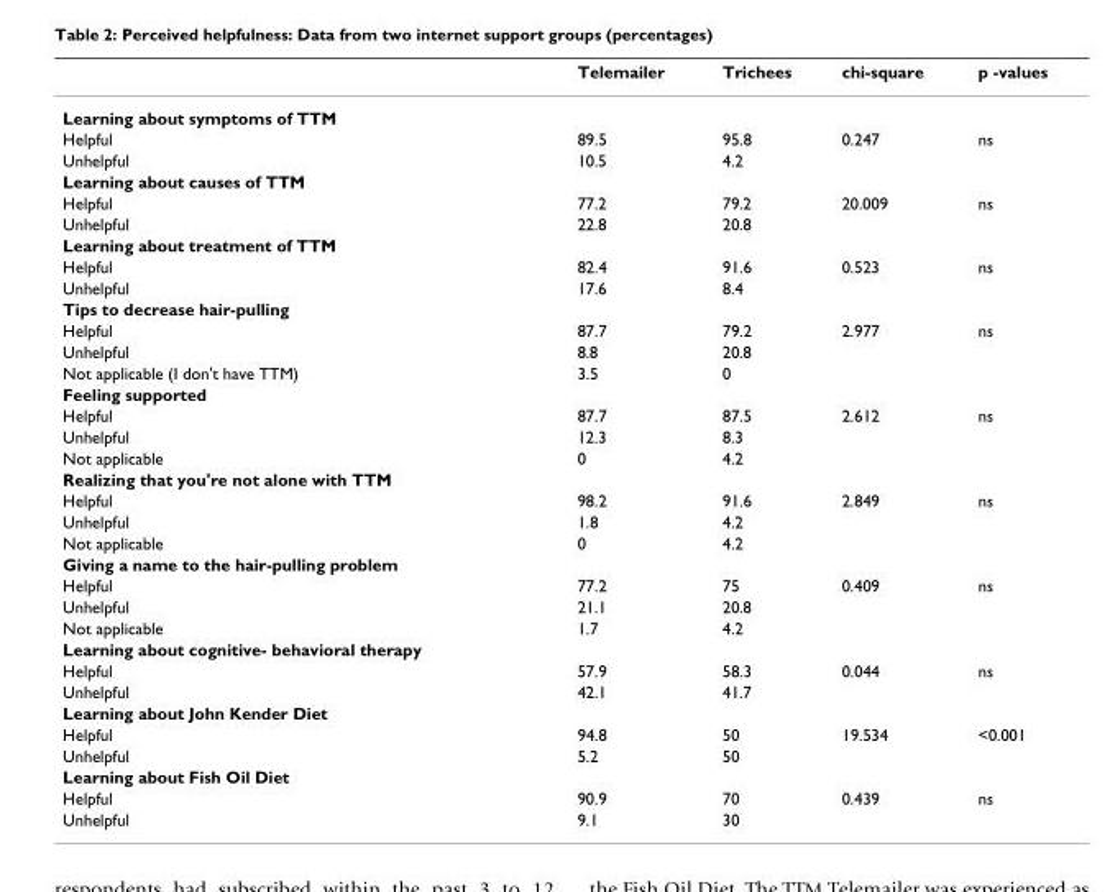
<table><thead><tr><td></td><td>Telemailer</td><td>Trichees</td><td>chi-square</td><td>p -values</td></tr></thead><tbody><tr><td colspan="5">Learning about symptoms of TTM</td></tr><tr><td>Helpful</td><td>89.5</td><td>95.8</td><td>0.247</td><td>ns</td></tr><tr><td>Unhelpful</td><td>10.5</td><td>4.2</td><td></td><td></td></tr><tr><td colspan="5">Learning about causes of TTM</td></tr><tr><td>Helpful</td><td>77.2</td><td>79.2</td><td>20.009</td><td>ns</td></tr><tr><td>Unhelpful</td><td>22.8</td><td>20.8</td><td></td><td></td></tr><tr><td colspan="5">Learning about treatment of TTM</td></tr><tr><td>Helpful</td><td>82.4</td><td>91.6</td><td>0.523</td><td>ns</td></tr><tr><td>Unhelpful</td><td>17.6</td><td>8.4</td><td></td><td></td></tr><tr><td colspan="5">Tips to decrease hair-pulling</td></tr><tr><td>Helpful</td><td>87.7</td><td>79.2</td><td>2.977</td><td>ns</td></tr><tr><td>Unhelpful</td><td>8.8</td><td>20.8</td><td></td><td></td></tr><tr><td>Not applicable (I don&#x27;t have TTM)</td><td>3.5</td><td>0</td><td></td><td></td></tr><tr><td colspan="5">Feeling supported</td></tr><tr><td>Helpful</td><td>87.7</td><td>87.5</td><td>2.612</td><td>ns</td></tr><tr><td>Unhelpful</td><td>12.3</td><td>8.3</td><td></td><td></td></tr><tr><td>Not applicable</td><td>0</td><td>4.2</td><td></td><td></td></tr><tr><td colspan="5">Realizing that you&#x27;re not alone with TTM</td></tr><tr><td>Helpful</td><td>98.2</td><td>91.6</td><td>2.849</td><td>ns</td></tr><tr><td>Unhelpful</td><td>1.8</td><td>4.2</td><td></td><td></td></tr><tr><td>Not applicable</td><td>0</td><td>4.2</td><td></td><td></td></tr><tr><td colspan="5">Giving a name to the hair-pulling problem</td></tr><tr><td>Helpful</td><td>77.2</td><td>75</td><td>0.409</td><td>ns</td></tr><tr><td>Unhelpful</td><td>21.1</td><td>20.8</td><td></td><td></td></tr><tr><td>Not applicable</td><td>1.7</td><td>4.2</td><td></td><td></td></tr><tr><td colspan="5">Learning about cognitive- behavioral therapy</td></tr><tr><td>Helpful</td><td>57.9</td><td>58.3</td><td>0.044</td><td>ns</td></tr><tr><td>Unhelpful</td><td>42.1</td><td>41.7</td><td></td><td></td></tr><tr><td colspan="5">Learning about John Kender Diet</td></tr><tr><td>Helpful</td><td>94.8</td><td>50</td><td>19.534</td><td>&lt;0.001</td></tr><tr><td>Unhelpful</td><td>5.2</td><td>50</td><td></td><td></td></tr><tr><td colspan="5">Learning about Fish Oil Diet</td></tr><tr><td>Helpful</td><td>90.9</td><td>70</td><td>0.439</td><td>ns</td></tr><tr><td>Unhelpful</td><td>9.1</td><td>30</td><td></td><td></td></tr></tbody></table>